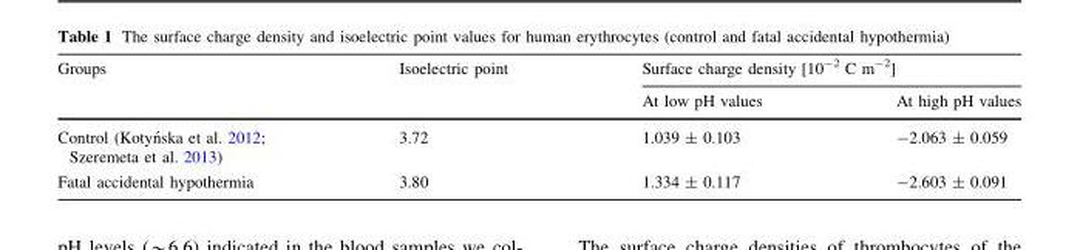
<table><thead><tr><td rowspan="2">Groups</td><td rowspan="2">Isoelectric point</td><td colspan="2">Surface charge density [10<sup>-2</sup> C m<sup>-2</sup>]</td></tr><tr><td>At low pH values</td><td>At high pH values</td></tr></thead><tbody><tr><td>Control (Kotyn´ska et al. 2012; Szeremeta et al. 2013)</td><td>3.72</td><td>1.039 ± 0.103</td><td>-2.063 ± 0.059</td></tr><tr><td>Fatal accidental hypothermia</td><td>3.80</td><td>1.334 ± 0.117</td><td>-2.603 ± 0.091</td></tr></tbody></table>